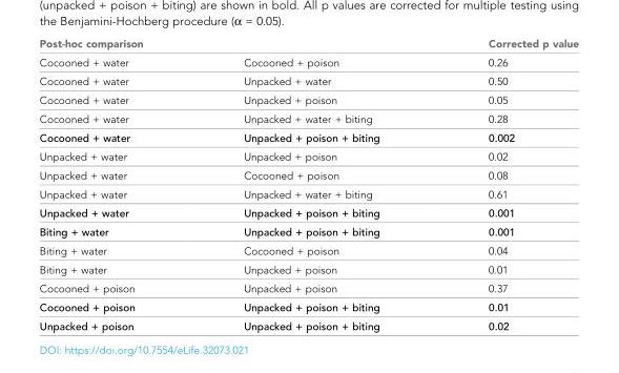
<table><thead><tr><td colspan="2">Post-hoc comparison</td><td rowspan="2">Corrected p value 0.26</td></tr><tr><td>Cocooned + water</td><td>Cocooned + poison</td></tr></thead><tbody><tr><td>Cocooned + water</td><td>Unpacked + water</td><td>0.50</td></tr><tr><td>Cocooned + water</td><td>Unpacked + poison</td><td>0.05</td></tr><tr><td>Cocooned + water</td><td>Unpacked + water + biting</td><td>0.28</td></tr><tr><td>Cocooned + water</td><td>Unpacked + poison + biting</td><td>0.002</td></tr><tr><td>Unpacked + water</td><td>Unpacked + poison</td><td>0.02</td></tr><tr><td>Unpacked + water</td><td>Cocooned + poison</td><td>0.08</td></tr><tr><td>Unpacked + water</td><td>Unpacked + water + biting</td><td>0.61</td></tr><tr><td>Unpacked + water</td><td>Unpacked + poison + biting</td><td>0.001</td></tr><tr><td>Biting + water</td><td>Unpacked + poison + biting</td><td>0.001</td></tr><tr><td>Biting + water</td><td>Cocooned + poison</td><td>0.04</td></tr><tr><td>Biting + water</td><td>Unpacked + poison</td><td>0.01</td></tr><tr><td>Cocooned + poison</td><td>Unpacked + poison</td><td>0.37</td></tr><tr><td>Cocooned + poison</td><td>Unpacked + poison + biting</td><td>0.01</td></tr><tr><td>Unpacked + poison</td><td>Unpacked + poison + biting</td><td>0.02</td></tr></tbody></table>